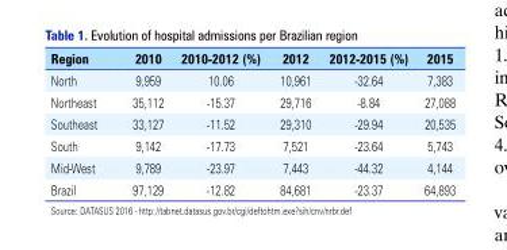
<table><thead><tr><td>Region</td><td>2010</td><td>2010-2012 (%)</td><td>2012</td><td>2012-2015 (%)</td><td>2015</td></tr></thead><tbody><tr><td>North</td><td>9,959</td><td>10.06</td><td>10,961</td><td>-32.64</td><td>7,383</td></tr><tr><td>Northeast</td><td>35,112</td><td>-15.37</td><td>29,716</td><td>-8.84</td><td>27,088</td></tr><tr><td>Southeast</td><td>33,127</td><td>-11.52</td><td>29,310</td><td>-29.94</td><td>20,535</td></tr><tr><td>South</td><td>9,142</td><td>-17.73</td><td>7,521</td><td>-23.64</td><td>5,743</td></tr><tr><td>Mid-West</td><td>9,789</td><td>-23.97</td><td>7,443</td><td>-44.32</td><td>4,144</td></tr><tr><td>Brazil</td><td>97,129</td><td>-12.82</td><td>84,681</td><td>-23.37</td><td>64,893</td></tr></tbody></table>